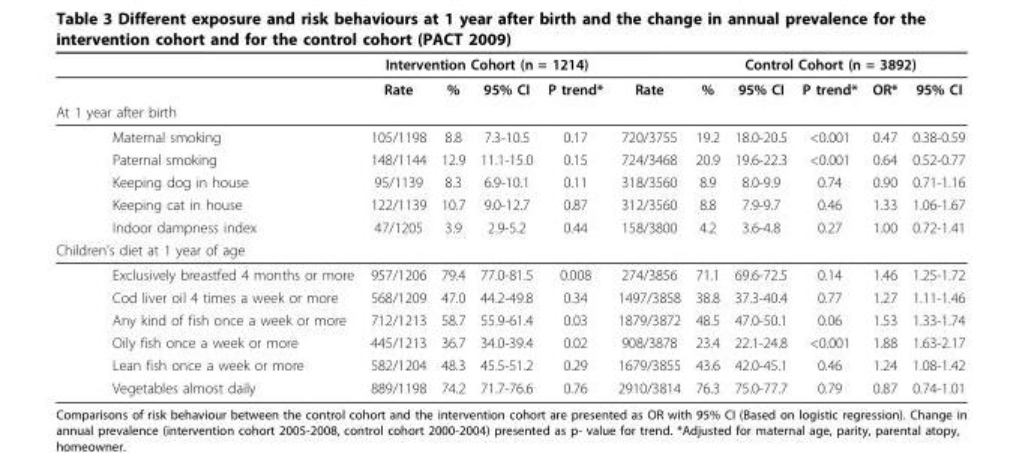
<table><thead><tr><td rowspan="2"></td><td colspan="4">Intervention Cohort (n = 1214)</td><td rowspan="2">Rate</td><td colspan="5">Control Cohort (n = 3892)</td></tr><tr><td>Rate</td><td>%</td><td>95% CI</td><td>P trend*</td><td>%</td><td>95% CI</td><td>P trend*</td><td>OR*</td><td>95% CI</td></tr></thead><tbody><tr><td colspan="11">At 1 year after birth</td></tr><tr><td>Maternal smoking</td><td>105/1198</td><td>8.8</td><td>7.3-10.5</td><td>0.17</td><td>720/3755</td><td>19.2</td><td>18.0-20.5</td><td>&lt;0.001</td><td>0.47</td><td>0.38-0.59</td></tr><tr><td>Paternal smoking</td><td>148/1144</td><td>12.9</td><td>11.1-15.0</td><td>0.15</td><td>724/3468</td><td>20.9</td><td>19.6-22.3</td><td>&lt;0.001</td><td>0.64</td><td>0.52-0.77</td></tr><tr><td>Keeping dog in house</td><td>95/1139</td><td>8.3</td><td>6.9-10.1</td><td>0.11</td><td>318/3560</td><td>8.9</td><td>8.0-9.9</td><td>0.74</td><td>0.90</td><td>0.71-1.16</td></tr><tr><td>Keeping cat in house</td><td>122/1139</td><td>10.7</td><td>9.0-12.7</td><td>0.87</td><td>312/3560</td><td>8.8</td><td>7.9-9.7</td><td>0.46</td><td>1.33</td><td>1.06-1.67</td></tr><tr><td>Indoor dampness index</td><td>47/1205</td><td>3.9</td><td>2.9-5.2</td><td>0.44</td><td>158/3800</td><td>4.2</td><td>3.6-4.8</td><td>0.27</td><td>1.00</td><td>0.72-1.41</td></tr><tr><td colspan="11">Children’s diet at 1 year of age</td></tr><tr><td>Exclusively breastfed 4 months or more</td><td>957/1206</td><td>79.4</td><td>77.0-81.5</td><td>0.008</td><td>274/3856</td><td>71.1</td><td>69.6-72.5</td><td>0.14</td><td>1.46</td><td>1.25-1.72</td></tr><tr><td>Cod liver oil 4 times a week or more</td><td>568/1209</td><td>47.0</td><td>44.2-49.8</td><td>0.34</td><td>1497/3858</td><td>38.8</td><td>37.3-40.4</td><td>0.77</td><td>1.27</td><td>1.11-1.46</td></tr><tr><td>Any kind of fish once a week or more</td><td>712/1213</td><td>58.7</td><td>55.9-61.4</td><td>0.03</td><td>1879/3872</td><td>48.5</td><td>47.0-50.1</td><td>0.06</td><td>1.53</td><td>1.33-1.74</td></tr><tr><td>Oily fish once a week or more</td><td>445/1213</td><td>36.7</td><td>34.0-39.4</td><td>0.02</td><td>908/3878</td><td>23.4</td><td>22.1-24.8</td><td>&lt;0.001</td><td>1.88</td><td>1.63-2.17</td></tr><tr><td>Lean fish once a week or more</td><td>582/1204</td><td>48.3</td><td>45.5-51.2</td><td>0.29</td><td>1679/3855</td><td>43.6</td><td>42.0-45.1</td><td>0.46</td><td>1.24</td><td>1.08-1.42</td></tr><tr><td>Vegetables almost daily</td><td>889/1198</td><td>74.2</td><td>71.7-76.6</td><td>0.76</td><td>2910/3814</td><td>76.3</td><td>75.0-77.7</td><td>0.79</td><td>0.87</td><td>0.74-1.01</td></tr></tbody></table>